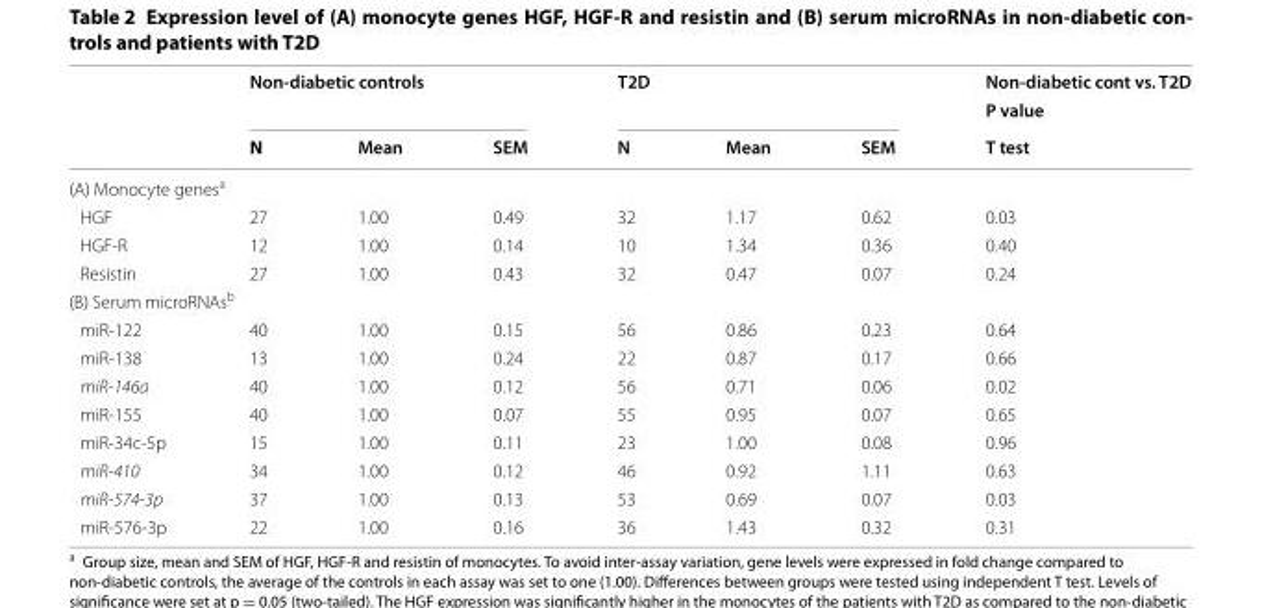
<table><thead><tr><td rowspan="3"></td><td rowspan="2" colspan="3">Non‑diabetic controls</td><td rowspan="2" colspan="3">T2D</td><td rowspan="3">Non‑diabetic cont vs. T2D P value T test</td></tr><tr></tr><tr><td>N</td><td>Mean</td><td>SEM</td><td>N</td><td>Mean</td><td>SEM</td></tr></thead><tbody><tr><td colspan="8">(A) Monocyte genes<sup>a</sup></td></tr><tr><td>HGF</td><td>27</td><td>1.00</td><td>0.49</td><td>32</td><td>1.17</td><td>0.62</td><td>0.03</td></tr><tr><td>HGF‑R</td><td>12</td><td>1.00</td><td>0.14</td><td>10</td><td>1.34</td><td>0.36</td><td>0.40</td></tr><tr><td>Resistin</td><td>27</td><td>1.00</td><td>0.43</td><td>32</td><td>0.47</td><td>0.07</td><td>0.24</td></tr><tr><td colspan="8">(B) Serum microRNAs<sup>b</sup></td></tr><tr><td>miR‑122</td><td>40</td><td>1.00</td><td>0.15</td><td>56</td><td>0.86</td><td>0.23</td><td>0.64</td></tr><tr><td>miR‑138</td><td>13</td><td>1.00</td><td>0.24</td><td>22</td><td>0.87</td><td>0.17</td><td>0.66</td></tr><tr><td>miR‑146a</td><td>40</td><td>1.00</td><td>0.12</td><td>56</td><td>0.71</td><td>0.06</td><td>0.02</td></tr><tr><td>miR‑155</td><td>40</td><td>1.00</td><td>0.07</td><td>55</td><td>0.95</td><td>0.07</td><td>0.65</td></tr><tr><td>miR‑34c‑5p</td><td>15</td><td>1.00</td><td>0.11</td><td>23</td><td>1.00</td><td>0.08</td><td>0.96</td></tr><tr><td>miR‑410</td><td>34</td><td>1.00</td><td>0.12</td><td>46</td><td>0.92</td><td>1.11</td><td>0.63</td></tr><tr><td>miR‑574‑3p</td><td>37</td><td>1.00</td><td>0.13</td><td>53</td><td>0.69</td><td>0.07</td><td>0.03</td></tr><tr><td>miR‑576‑3p</td><td>22</td><td>1.00</td><td>0.16</td><td>36</td><td>1.43</td><td>0.32</td><td>0.31</td></tr></tbody></table>